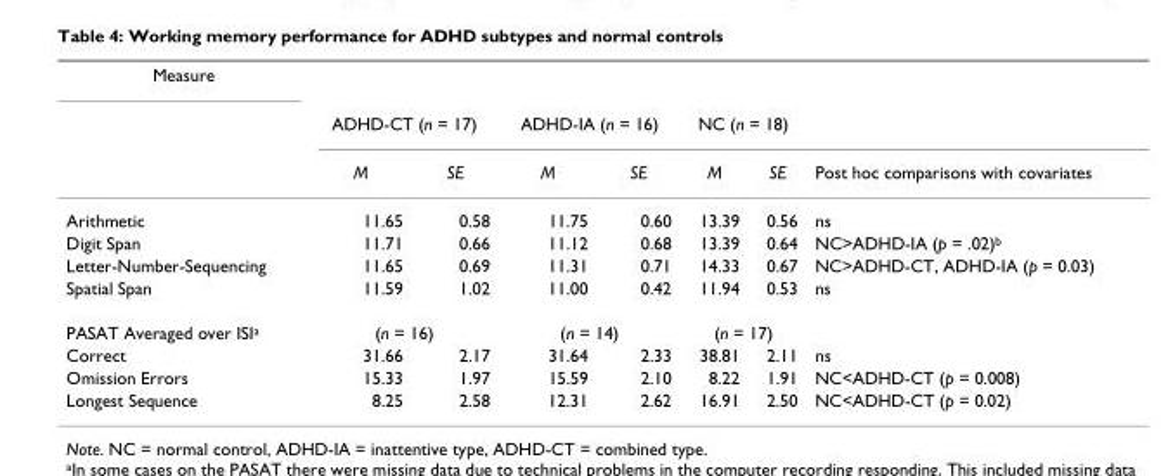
<table><thead><tr><td rowspan="3">Measure</td><td></td><td></td><td></td><td></td><td></td><td></td><td rowspan="3">Post hoc comparisons with covariates</td></tr><tr><td colspan="2">ADHD-CT (n = 17)</td><td colspan="2">ADHD-IA (n = 16)</td><td colspan="2">NC (n = 18)</td></tr><tr><td>M</td><td>SE</td><td>M</td><td>SE</td><td>M</td><td>SE</td></tr></thead><tbody><tr><td>Arithmetic</td><td>11.65</td><td>0.58</td><td>11.75</td><td>0.60</td><td>13.39</td><td>0.56</td><td>ns</td></tr><tr><td>Digit Span</td><td>11.71</td><td>0.66</td><td>11.12</td><td>0.68</td><td>13.39</td><td>0.64</td><td>NC&gt;ADHD-IA (p = .02)<sup>b</sup></td></tr><tr><td>Letter-Number-Sequencing</td><td>11.65</td><td>0.69</td><td>11.31</td><td>0.71</td><td>14.33</td><td>0.67</td><td>NC&gt;ADHD-CT, ADHD-IA (p = 0.03)</td></tr><tr><td>Spatial Span</td><td>11.59</td><td>1.02</td><td>11.00</td><td>0.42</td><td>11.94</td><td>0.53</td><td>ns</td></tr><tr><td>PASAT Averaged over ISI<sup>a</sup></td><td colspan="2">(n = 16)</td><td colspan="2">(n = 14)</td><td colspan="2">(n = 17)</td><td></td></tr><tr><td>Correct</td><td>31.66</td><td>2.17</td><td>31.64</td><td>2.33</td><td>38.81</td><td>2.11</td><td>ns</td></tr><tr><td>Omission Errors</td><td>15.33</td><td>1.97</td><td>15.59</td><td>2.10</td><td>8.22</td><td>1.91</td><td>NC&lt;ADHD-CT (p = 0.008)</td></tr><tr><td>Longest Sequence</td><td>8.25</td><td>2.58</td><td>12.31</td><td>2.62</td><td>16.91</td><td>2.50</td><td>NC&lt;ADHD-CT (p = 0.02)</td></tr></tbody></table>